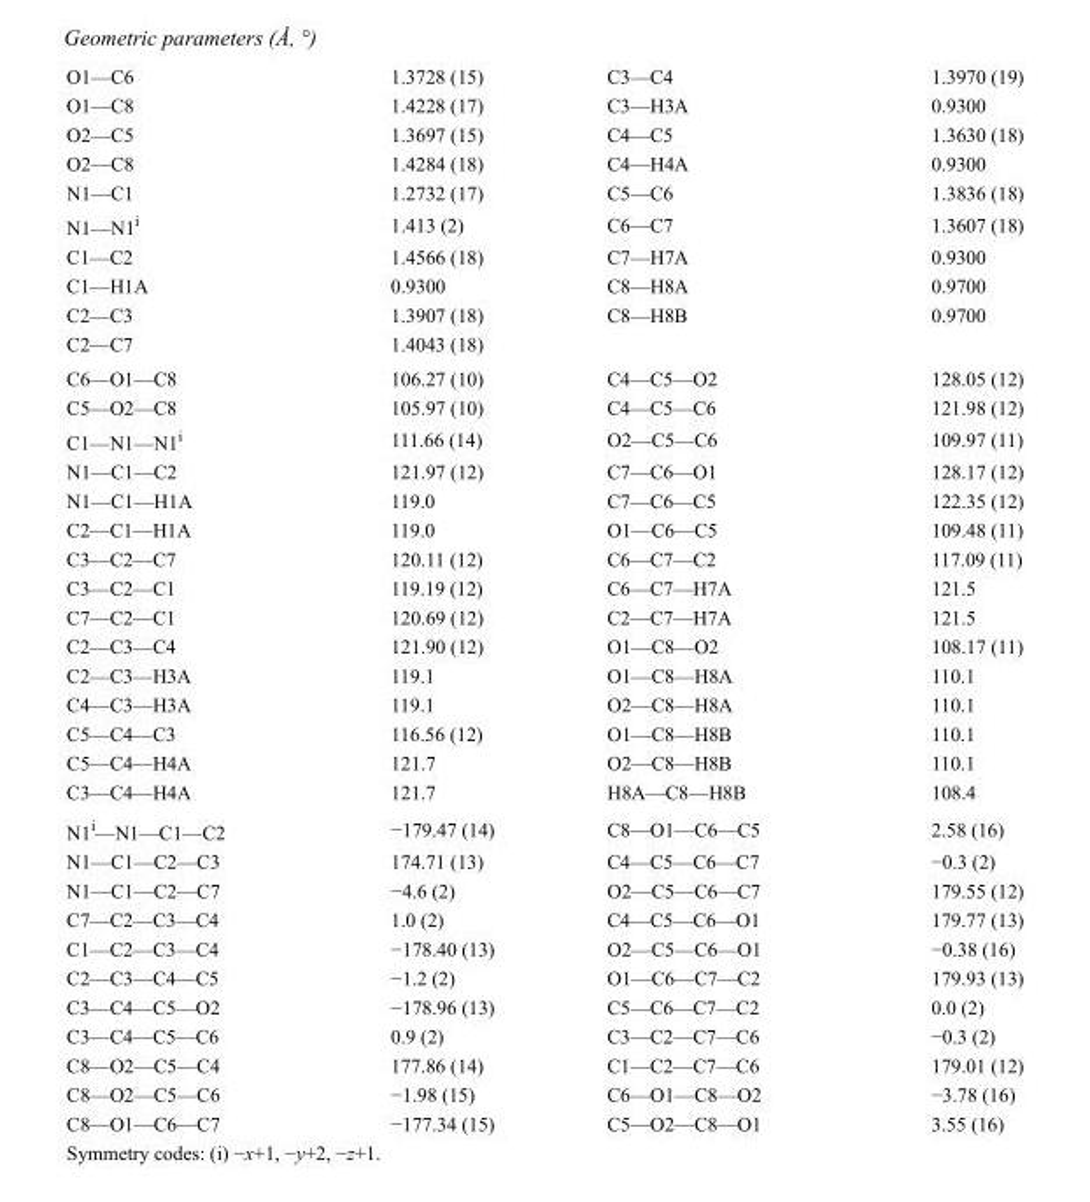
<table><tbody><tr><td>O1—C6</td><td>1.3728 (15)</td><td>C3—C4</td><td>1.3970 (19)</td></tr><tr><td>O1—C8</td><td>1.4228 (17)</td><td>C3—H3A</td><td>0.9300</td></tr><tr><td>O2—C5</td><td>1.3697 (15)</td><td>C4—C5</td><td>1.3630 (18)</td></tr><tr><td>O2—C8</td><td>1.4284 (18)</td><td>C4—H4A</td><td>0.9300</td></tr><tr><td>N1—C1</td><td>1.2732 (17)</td><td>C5—C6</td><td>1.3836 (18)</td></tr><tr><td>N1—N1<sup>i</sup></td><td>1.413 (2)</td><td>C6—C7</td><td>1.3607 (18)</td></tr><tr><td>C1—C2</td><td>1.4566 (18)</td><td>C7—H7A</td><td>0.9300</td></tr><tr><td>C1—H1A</td><td>0.9300</td><td>C8—H8A</td><td>0.9700</td></tr><tr><td>C2—C3</td><td>1.3907 (18)</td><td>C8—H8B</td><td>0.9700</td></tr><tr><td>C2—C7</td><td>1.4043 (18)</td><td></td><td></td></tr><tr><td>C6—O1—C8</td><td>106.27 (10)</td><td>C4—C5—O2</td><td>128.05 (12)</td></tr><tr><td>C5—O2—C8</td><td>105.97 (10)</td><td>C4—C5—C6</td><td>121.98 (12)</td></tr><tr><td>C1—N1—N1<sup>i</sup></td><td>111.66 (14)</td><td>O2—C5—C6</td><td>109.97 (11)</td></tr><tr><td>N1—C1—C2</td><td>121.97 (12)</td><td>C7—C6—O1</td><td>128.17 (12)</td></tr><tr><td>N1—C1—H1A</td><td>119.0</td><td>C7—C6—C5</td><td>122.35 (12)</td></tr><tr><td>C2—C1—H1A</td><td>119.0</td><td>O1—C6—C5</td><td>109.48 (11)</td></tr><tr><td>C3—C2—C7</td><td>120.11 (12)</td><td>C6—C7—C2</td><td>117.09 (11)</td></tr><tr><td>C3—C2—C1</td><td>119.19 (12)</td><td>C6—C7—H7A</td><td>121.5</td></tr><tr><td>C7—C2—C1</td><td>120.69 (12)</td><td>C2—C7—H7A</td><td>121.5</td></tr><tr><td>C2—C3—C4</td><td>121.90 (12)</td><td>O1—C8—O2</td><td>108.17 (11)</td></tr><tr><td>C2—C3—H3A</td><td>119.1</td><td>O1—C8—H8A</td><td>110.1</td></tr><tr><td>C4—C3—H3A</td><td>119.1</td><td>O2—C8—H8A</td><td>110.1</td></tr><tr><td>C5—C4—C3</td><td>116.56 (12)</td><td>O1—C8—H8B</td><td>110.1</td></tr><tr><td>C5—C4—H4A</td><td>121.7</td><td>O2—C8—H8B</td><td>110.1</td></tr><tr><td>C3—C4—H4A</td><td>121.7</td><td>H8A—C8—H8B</td><td>108.4</td></tr><tr><td>N1<sup>i</sup>—N1—C1—C2</td><td>−179.47 (14)</td><td>C8—O1—C6—C5</td><td>2.58 (16)</td></tr><tr><td>N1—C1—C2—C3</td><td>174.71 (13)</td><td>C4—C5—C6—C7</td><td>−0.3 (2)</td></tr><tr><td>N1—C1—C2—C7</td><td>−4.6 (2)</td><td>O2—C5—C6—C7</td><td>179.55 (12)</td></tr><tr><td>C7—C2—C3—C4</td><td>1.0 (2)</td><td>C4—C5—C6—O1</td><td>179.77 (13)</td></tr><tr><td>C1—C2—C3—C4</td><td>−178.40 (13)</td><td>O2—C5—C6—O1</td><td>−0.38 (16)</td></tr><tr><td>C2—C3—C4—C5</td><td>−1.2 (2)</td><td>O1—C6—C7—C2</td><td>179.93 (13)</td></tr><tr><td>C3—C4—C5—O2</td><td>−178.96 (13)</td><td>C5—C6—C7—C2</td><td>0.0 (2)</td></tr><tr><td>C3—C4—C5—C6</td><td>0.9 (2)</td><td>C3—C2—C7—C6</td><td>−0.3 (2)</td></tr><tr><td>C8—O2—C5—C4</td><td>177.86 (14)</td><td>C1—C2—C7—C6</td><td>179.01 (12)</td></tr><tr><td>C8—O2—C5—C6</td><td>−1.98 (15)</td><td>C6—O1—C8—O2</td><td>−3.78 (16)</td></tr><tr><td>C8—O1—C6—C7</td><td>−177.34 (15)</td><td>C5—O2—C8—O1</td><td>3.55 (16)</td></tr></tbody></table>